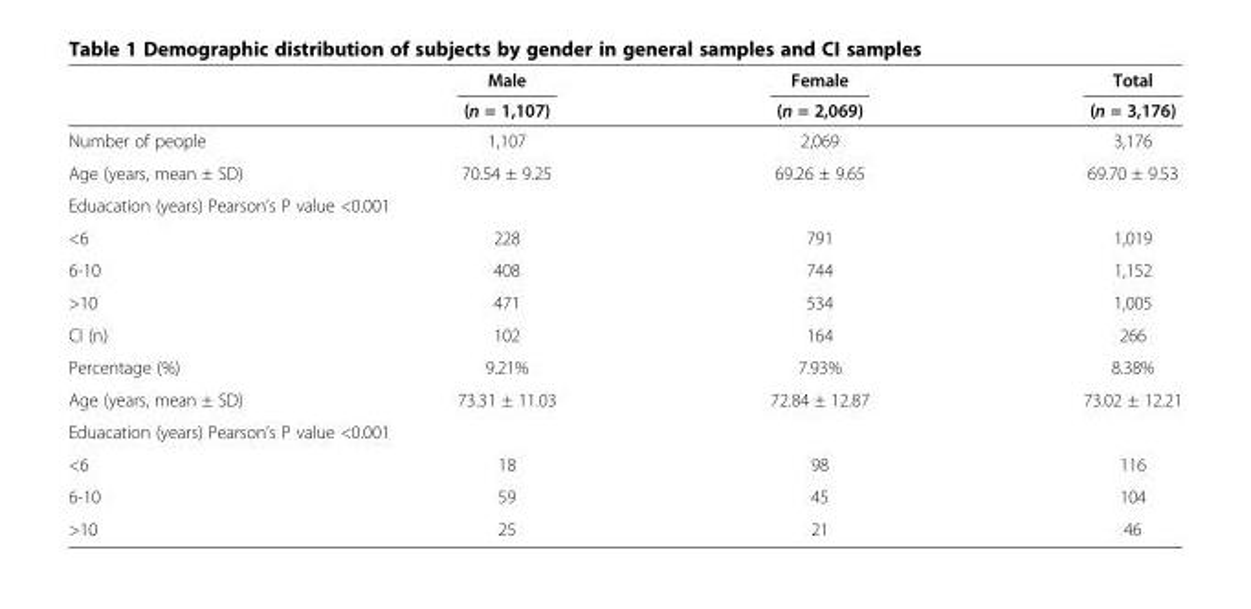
<table><thead><tr><td rowspan="2"></td><td rowspan="2">Male (n = 1,107)</td><td rowspan="2">Female (n = 2,069)</td><td rowspan="2">Total (n = 3,176)</td></tr><tr></tr></thead><tbody><tr><td>Number of people</td><td>1,107</td><td>2,069</td><td>3,176</td></tr><tr><td>Age (years, mean ± SD)</td><td>70.54 ± 9.25</td><td>69.26 ± 9.65</td><td>69.70 ± 9.53</td></tr><tr><td colspan="4">Eduacation (years) Pearson’s P value &lt;0.001</td></tr><tr><td>&lt;6</td><td>228</td><td>791</td><td>1,019</td></tr><tr><td>6-10</td><td>408</td><td>744</td><td>1,152</td></tr><tr><td>&gt;10</td><td>471</td><td>534</td><td>1,005</td></tr><tr><td>CI (n)</td><td>102</td><td>164</td><td>266</td></tr><tr><td>Percentage (%)</td><td>9.21%</td><td>7.93%</td><td>8.38%</td></tr><tr><td>Age (years, mean ± SD)</td><td>73.31 ± 11.03</td><td>72.84 ± 12.87</td><td>73.02 ± 12.21</td></tr><tr><td colspan="4">Eduacation (years) Pearson’s P value &lt;0.001</td></tr><tr><td>&lt;6</td><td>18</td><td>98</td><td>116</td></tr><tr><td>6-10</td><td>59</td><td>45</td><td>104</td></tr><tr><td>&gt;10</td><td>25</td><td>21</td><td>46</td></tr></tbody></table>